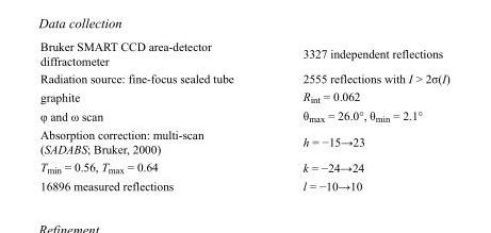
<table><tbody><tr><td>Bruker SMART CCD area-detector diffractometer</td><td>3327 independent reflections</td></tr><tr><td>Radiation source: fine-focus sealed tube</td><td>2555 reflections with I &gt; 2σ(I)</td></tr><tr><td>graphite</td><td>R<sub>int</sub> = 0.062</td></tr><tr><td>φ and ω scan</td><td>θ<sub>max</sub> = 26.0°, θ<sub>min</sub> = 2.1°</td></tr><tr><td>Absorption correction: multi-scan (SADABS; Bruker, 2000)</td><td>h = −15→23</td></tr><tr><td>T<sub>min</sub> = 0.56, T<sub>max</sub> = 0.64</td><td>k = −24→24</td></tr><tr><td>16896 measured reflections</td><td>l = −10→10</td></tr></tbody></table>